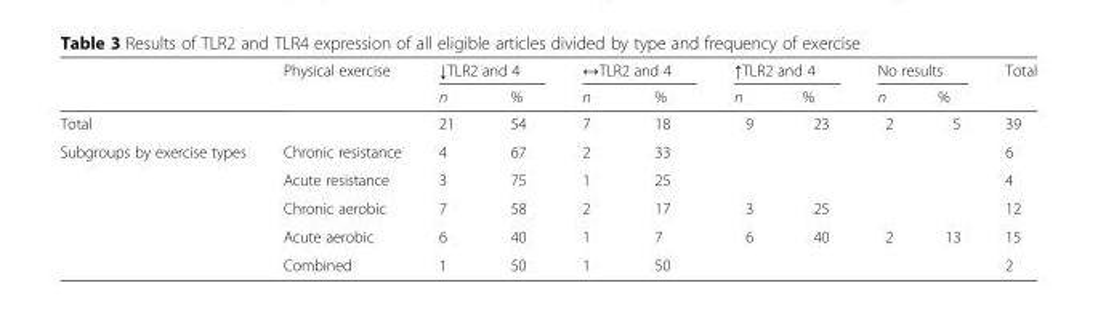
<table><thead><tr><td rowspan="2"></td><td rowspan="2">Physical exercise</td><td colspan="2">↓TLR2 and 4</td><td colspan="2">↔TLR2 and 4</td><td colspan="2">↑TLR2 and 4</td><td colspan="2">No results</td><td rowspan="2">Total</td></tr><tr><td>n</td><td>%</td><td>n</td><td>%</td><td>n</td><td>%</td><td>n</td><td>%</td></tr></thead><tbody><tr><td>Total</td><td></td><td>21</td><td>54</td><td>7</td><td>18</td><td>9</td><td>23</td><td>2</td><td>5</td><td>39</td></tr><tr><td rowspan="5">Subgroups by exercise types</td><td>Chronic resistance</td><td>4</td><td>67</td><td>2</td><td>33</td><td></td><td></td><td></td><td></td><td>6</td></tr><tr><td>Acute resistance</td><td>3</td><td>75</td><td>1</td><td>25</td><td></td><td></td><td></td><td></td><td>4</td></tr><tr><td>Chronic aerobic</td><td>7</td><td>58</td><td>2</td><td>17</td><td>3</td><td>25</td><td></td><td></td><td>12</td></tr><tr><td>Acute aerobic</td><td>6</td><td>40</td><td>1</td><td>7</td><td>6</td><td>40</td><td>2</td><td>13</td><td>15</td></tr><tr><td>Combined</td><td>1</td><td>50</td><td>1</td><td>50</td><td></td><td></td><td></td><td></td><td>2</td></tr></tbody></table>